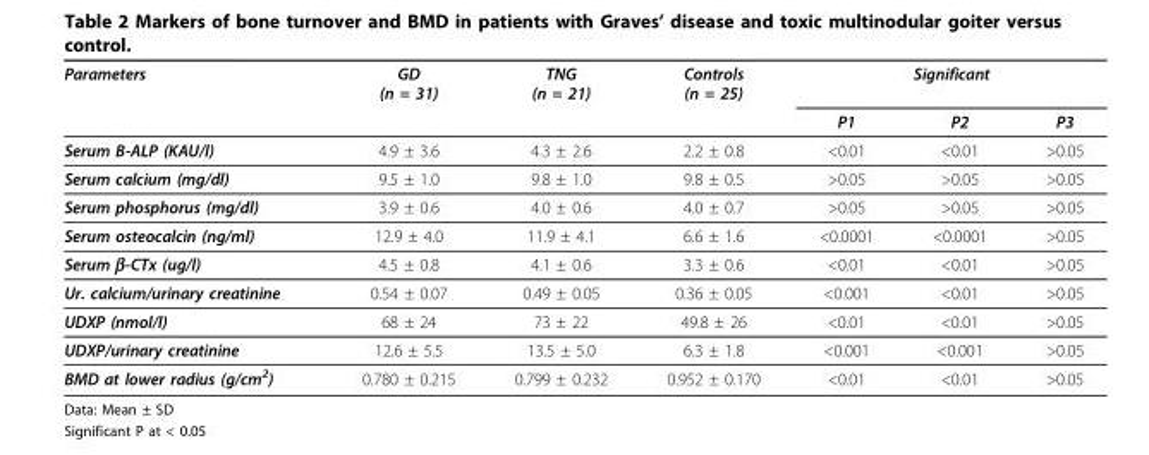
<table><thead><tr><td rowspan="2">Parameters</td><td rowspan="2">GD (n = 31)</td><td rowspan="2">TNG (n = 21)</td><td rowspan="2">Controls (n = 25)</td><td colspan="3">Significant</td></tr><tr><td>P1</td><td>P2</td><td>P3</td></tr></thead><tbody><tr><td>Serum B-ALP (KAU/l)</td><td>4.9 ± 3.6</td><td>4.3 ± 2.6</td><td>2.2 ± 0.8</td><td>&lt;0.01</td><td>&lt;0.01</td><td>&gt;0.05</td></tr><tr><td>Serum calcium (mg/dl)</td><td>9.5 ± 1.0</td><td>9.8 ± 1.0</td><td>9.8 ± 0.5</td><td>&gt;0.05</td><td>&gt;0.05</td><td>&gt;0.05</td></tr><tr><td>Serum phosphorus (mg/dl)</td><td>3.9 ± 0.6</td><td>4.0 ± 0.6</td><td>4.0 ± 0.7</td><td>&gt;0.05</td><td>&gt;0.05</td><td>&gt;0.05</td></tr><tr><td>Serum osteocalcin (ng/ml)</td><td>12.9 ± 4.0</td><td>11.9 ± 4.1</td><td>6.6 ± 1.6</td><td>&lt;0.0001</td><td>&lt;0.0001</td><td>&gt;0.05</td></tr><tr><td>Serum β-CTx (ug/l)</td><td>4.5 ± 0.8</td><td>4.1 ± 0.6</td><td>3.3 ± 0.6</td><td>&lt;0.01</td><td>&lt;0.01</td><td>&gt;0.05</td></tr><tr><td>Ur. calcium/urinary creatinine</td><td>0.54 ± 0.07</td><td>0.49 ± 0.05</td><td>0.36 ± 0.05</td><td>&lt;0.001</td><td>&lt;0.01</td><td>&gt;0.05</td></tr><tr><td>UDXP (nmol/l)</td><td>68 ± 24</td><td>73 ± 22</td><td>49.8 ± 26</td><td>&lt;0.01</td><td>&lt;0.01</td><td>&gt;0.05</td></tr><tr><td>UDXP/urinary creatinine</td><td>12.6 ± 5.5</td><td>13.5 ± 5.0</td><td>6.3 ± 1.8</td><td>&lt;0.001</td><td>&lt;0.001</td><td>&gt;0.05</td></tr><tr><td>BMD at lower radius (g/cm2)</td><td>0.780 ± 0.215</td><td>0.799 ± 0.232</td><td>0.952 ± 0.170</td><td>&lt;0.01</td><td>&lt;0.01</td><td>&gt;0.05</td></tr></tbody></table>